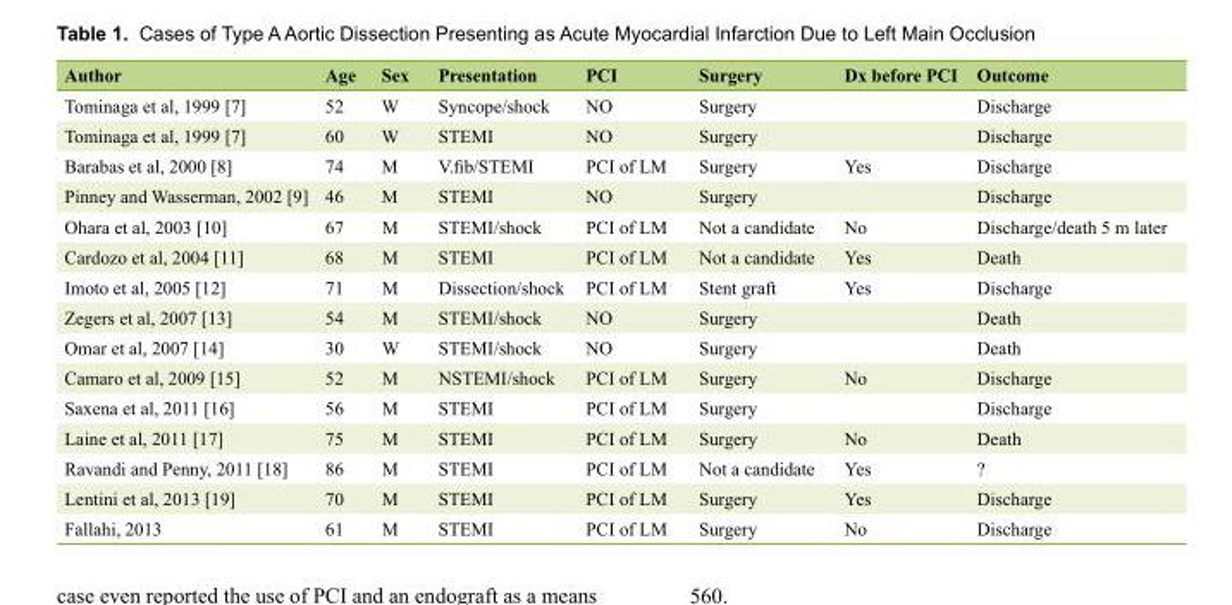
<table><thead><tr><td>Author</td><td>Age</td><td>Sex</td><td>Presentation</td><td>PCI</td><td>Surgery</td><td>Dx before PCI</td><td>Outcome</td></tr></thead><tbody><tr><td>Tominaga et al, 1999 [7]</td><td>52</td><td>W</td><td>Syncope/shock</td><td>NO</td><td>Surgery</td><td></td><td>Discharge</td></tr><tr><td>Tominaga et al, 1999 [7]</td><td>60</td><td>W</td><td>STEMI</td><td>NO</td><td>Surgery</td><td></td><td>Discharge</td></tr><tr><td>Barabas et al, 2000 [8]</td><td>74</td><td>M</td><td>V.fib/STEMI</td><td>PCI of LM</td><td>Surgery</td><td>Yes</td><td>Discharge</td></tr><tr><td>Pinney and Wasserman, 2002 [9]</td><td>46</td><td>M</td><td>STEMI</td><td>NO</td><td>Surgery</td><td></td><td>Discharge</td></tr><tr><td>Ohara et al, 2003 [10]</td><td>67</td><td>M</td><td>STEMI/shock</td><td>PCI of LM</td><td>Not a candidate</td><td>No</td><td>Discharge/death 5 m later</td></tr><tr><td>Cardozo et al, 2004 [11]</td><td>68</td><td>M</td><td>STEMI</td><td>PCI of LM</td><td>Not a candidate</td><td>Yes</td><td>Death</td></tr><tr><td>Imoto et al, 2005 [12]</td><td>71</td><td>M</td><td>Dissection/shock</td><td>PCI of LM</td><td>Stent graft</td><td>Yes</td><td>Discharge</td></tr><tr><td>Zegers et al, 2007 [13]</td><td>54</td><td>M</td><td>STEMI/shock</td><td>NO</td><td>Surgery</td><td></td><td>Death</td></tr><tr><td>Omar et al, 2007 [14]</td><td>30</td><td>W</td><td>STEMI/shock</td><td>NO</td><td>Surgery</td><td></td><td>Death</td></tr><tr><td>Camaro et al, 2009 [15]</td><td>52</td><td>M</td><td>NSTEMI/shock</td><td>PCI of LM</td><td>Surgery</td><td>No</td><td>Discharge</td></tr><tr><td>Saxena et al, 2011 [16]</td><td>56</td><td>M</td><td>STEMI</td><td>PCI of LM</td><td>Surgery</td><td></td><td>Discharge</td></tr><tr><td>Laine et al, 2011 [17]</td><td>75</td><td>M</td><td>STEMI</td><td>PCI of LM</td><td>Surgery</td><td>No</td><td>Death</td></tr><tr><td>Ravandi and Penny, 2011 [18]</td><td>86</td><td>M</td><td>STEMI</td><td>PCI of LM</td><td>Not a candidate</td><td>Yes</td><td>?</td></tr><tr><td>Lentini et al, 2013 [19]</td><td>70</td><td>M</td><td>STEMI</td><td>PCI of LM</td><td>Surgery</td><td>Yes</td><td>Discharge</td></tr><tr><td>Fallahi, 2013</td><td>61</td><td>M</td><td>STEMI</td><td>PCI of LM</td><td>Surgery</td><td>No</td><td>Discharge</td></tr></tbody></table>